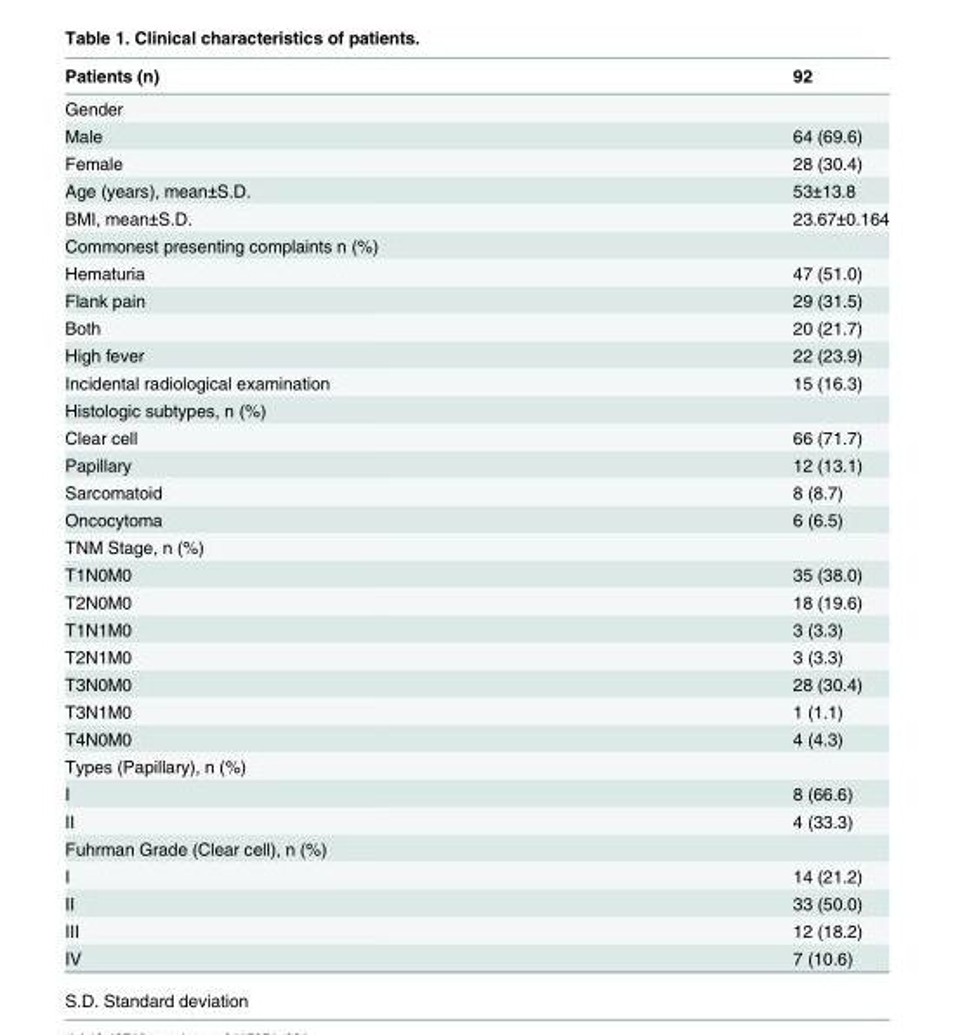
<table><thead><tr><td>Patients (n)</td><td>92</td></tr></thead><tbody><tr><td colspan="2">Gender</td></tr><tr><td>Male</td><td>64 (69.6)</td></tr><tr><td>Female</td><td>28 (30.4)</td></tr><tr><td>Age (years), mean±S.D.</td><td>53±13.8</td></tr><tr><td>BMI, mean±S.D.</td><td>23.67±0.164</td></tr><tr><td colspan="2">Commonest presenting complaints n (%)</td></tr><tr><td>Hematuria</td><td>47 (51.0)</td></tr><tr><td>Flank pain</td><td>29 (31.5)</td></tr><tr><td>Both</td><td>20 (21.7)</td></tr><tr><td>High fever</td><td>22 (23.9)</td></tr><tr><td>Incidental radiological examination</td><td>15 (16.3)</td></tr><tr><td colspan="2">Histologic subtypes, n (%)</td></tr><tr><td>Clear cell</td><td>66 (71.7)</td></tr><tr><td>Papillary</td><td>12 (13.1)</td></tr><tr><td>Sarcomatoid</td><td>8 (8.7)</td></tr><tr><td>Oncocytoma</td><td>6 (6.5)</td></tr><tr><td colspan="2">TNM Stage, n (%)</td></tr><tr><td>T1N0M0</td><td>35 (38.0)</td></tr><tr><td>T2N0M0</td><td>18 (19.6)</td></tr><tr><td>T1N1M0</td><td>3 (3.3)</td></tr><tr><td>T2N1M0</td><td>3 (3.3)</td></tr><tr><td>T3N0M0</td><td>28 (30.4)</td></tr><tr><td>T3N1M0</td><td>1 (1.1)</td></tr><tr><td>T4N0M0</td><td>4 (4.3)</td></tr><tr><td colspan="2">Types (Papillary), n (%)</td></tr><tr><td>I</td><td>8 (66.6)</td></tr><tr><td>II</td><td>4 (33.3)</td></tr><tr><td colspan="2">Fuhrman Grade (Clear cell), n (%)</td></tr><tr><td>I</td><td>14 (21.2)</td></tr><tr><td>II</td><td>33 (50.0)</td></tr><tr><td>III</td><td>12 (18.2)</td></tr><tr><td>IV</td><td>7 (10.6)</td></tr></tbody></table>